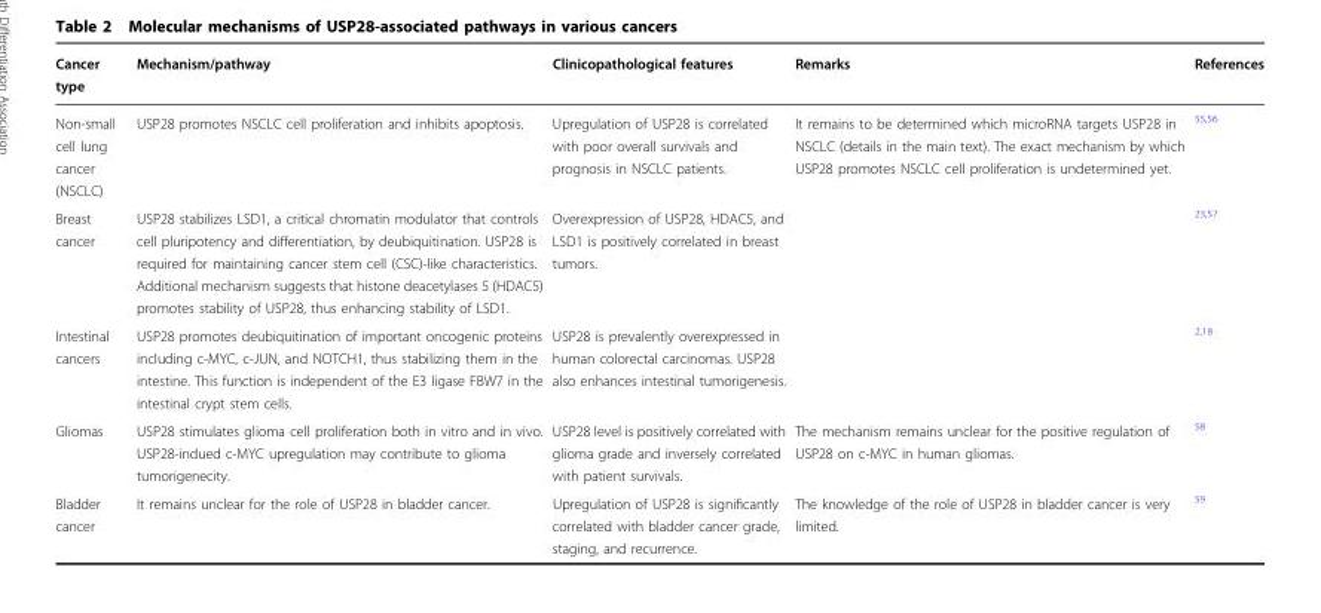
<table><thead><tr><td>Cancer type</td><td>Mechanism/pathway</td><td>Clinicopathological features</td><td>Remarks</td><td>References</td></tr></thead><tbody><tr><td>Non-small cell lung cancer (NSCLC)</td><td>USP28 promotes NSCLC cell proliferation and inhibits apoptosis.</td><td>Upregulation of USP28 is correlated with poor overall survivals and prognosis in NSCLC patients.</td><td>It remains to be determined which microRNA targets USP28 in NSCLC (details in the main text). The exact mechanism by which USP28 promotes NSCLC cell proliferation is undetermined yet.</td><td><sup>55,56</sup></td></tr><tr><td>Breast cancer</td><td>USP28 stabilizes LSD1, a critical chromatin modulator that controls cell pluripotency and differentiation, by deubiquitination. USP28 is required for maintaining cancer stem cell (CSC)-like characteristics. Additional mechanism suggests that histone deacetylases 5 (HDAC5) promotes stability of USP28, thus enhancing stability of LSD1.</td><td>Overexpression of USP28, HDAC5, and LSD1 is positively correlated in breast tumors.</td><td></td><td><sup>23,57</sup></td></tr><tr><td>Intestinal cancers</td><td>USP28 promotes deubiquitination of important oncogenic proteins including c-MYC, c-JUN, and NOTCH1, thus stabilizing them in the intestine. This function is independent of the E3 ligase FBW7 in the intestinal crypt stem cells.</td><td>USP28 is prevalently overexpressed in human colorectal carcinomas. USP28 also enhances intestinal tumorigenesis.</td><td></td><td><sup>2,18</sup></td></tr><tr><td>Gliomas</td><td>USP28 stimulates glioma cell proliferation both in vitro and in vivo. USP28-indued c-MYC upregulation may contribute to glioma tumorigenecity.</td><td>USP28 level is positively correlated with glioma grade and inversely correlated with patient survivals.</td><td>The mechanism remains unclear for the positive regulation of USP28 on c-MYC in human gliomas.</td><td><sup>58</sup></td></tr><tr><td>Bladder cancer</td><td>It remains unclear for the role of USP28 in bladder cancer.</td><td>Upregulation of USP28 is significantly correlated with bladder cancer grade, staging, and recurrence.</td><td>The knowledge of the role of USP28 in bladder cancer is very limited.</td><td><sup>59</sup></td></tr></tbody></table>